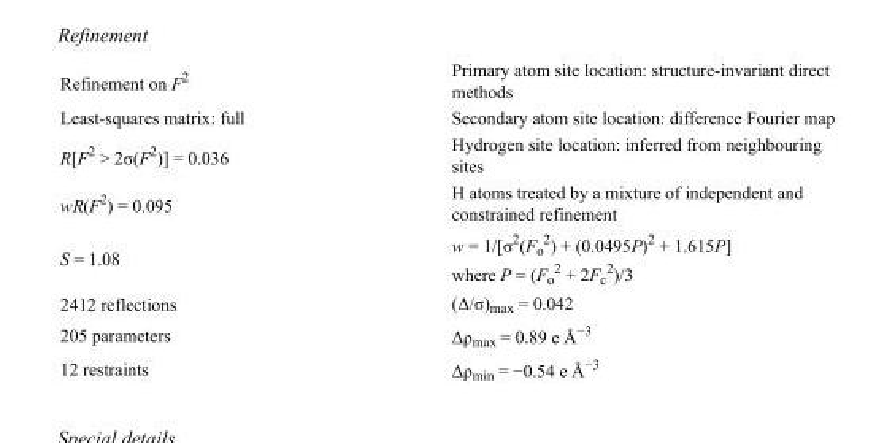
<table><tbody><tr><td>Refinement on F<sup>2</sup></td><td>Primary atom site location: structure-invariant direct methods</td></tr><tr><td>Least-squares matrix: full</td><td>Secondary atom site location: difference Fourier map</td></tr><tr><td>R[F<sup>2</sup> &gt; 2σ(F<sup>2</sup>)] = 0.036</td><td>Hydrogen site location: inferred from neighbouring sites</td></tr><tr><td>wR(F<sup>2</sup>) = 0.095</td><td>H atoms treated by a mixture of independent and constrained refinement</td></tr><tr><td>S = 1.08</td><td>w = 1/[σ<sup>2</sup>(F<sub>o</sub> <sup>2</sup>) + (0.0495P)<sup>2</sup> + 1.615P] where P = (F<sub>o</sub> <sup>2</sup> + 2F<sub>c</sub> <sup>2</sup>)/3</td></tr><tr><td>2412 reflections</td><td>(Δ/σ)<sub>max</sub> = 0.042</td></tr><tr><td>205 parameters</td><td>Δρ<sub>max</sub> = 0.89 e Å<sup>−3</sup></td></tr><tr><td>12 restraints</td><td>Δρ<sub>min</sub> = −0.54 e Å<sup>−3</sup></td></tr></tbody></table>